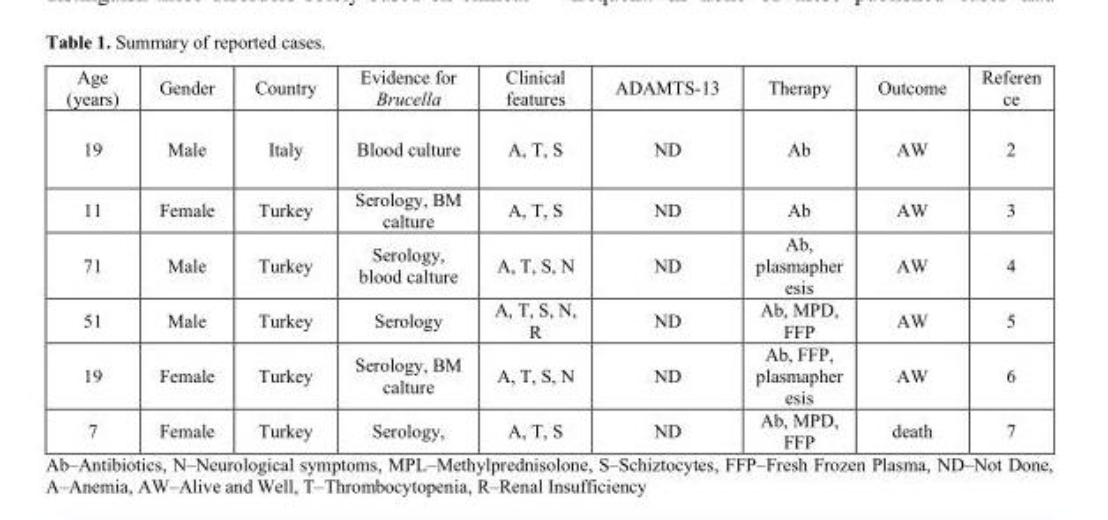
<table><thead><tr><td>Age (years)</td><td>Gender</td><td>Country</td><td>Evidence for Brucella</td><td>Clinical features</td><td>ADAMTS-13</td><td>Therapy</td><td>Outcome</td><td>Referen ce</td></tr></thead><tbody><tr><td>19</td><td>Male</td><td>Italy</td><td>Blood culture</td><td>A, T, S</td><td>ND</td><td>Ab</td><td>AW</td><td>2</td></tr><tr><td>11</td><td>Female</td><td>Turkey</td><td>Serology, BM calture</td><td>A, T, S</td><td>ND</td><td>Ab</td><td>AW</td><td>3</td></tr><tr><td>71</td><td>Male</td><td>Turkey</td><td>Serology, blood calture</td><td>A, T, S, N</td><td>ND</td><td>Ab, plasmapher esis</td><td>AW</td><td>4</td></tr><tr><td>51</td><td>Male</td><td>Turkey</td><td>Serology</td><td>A, T, S, N, R</td><td>ND</td><td>Ab, MPD, FFP</td><td>AW</td><td>5</td></tr><tr><td>19</td><td>Female</td><td>Turkey</td><td>Serology, BM calture</td><td>A, T, S, N</td><td>ND</td><td>Ab, FFP, plasmapher esis</td><td>AW</td><td>6</td></tr><tr><td>7</td><td>Female</td><td>Turkey</td><td>Serology,</td><td>A, T, S</td><td>ND</td><td>Ab, MPD, FFP</td><td>death</td><td>7</td></tr></tbody></table>